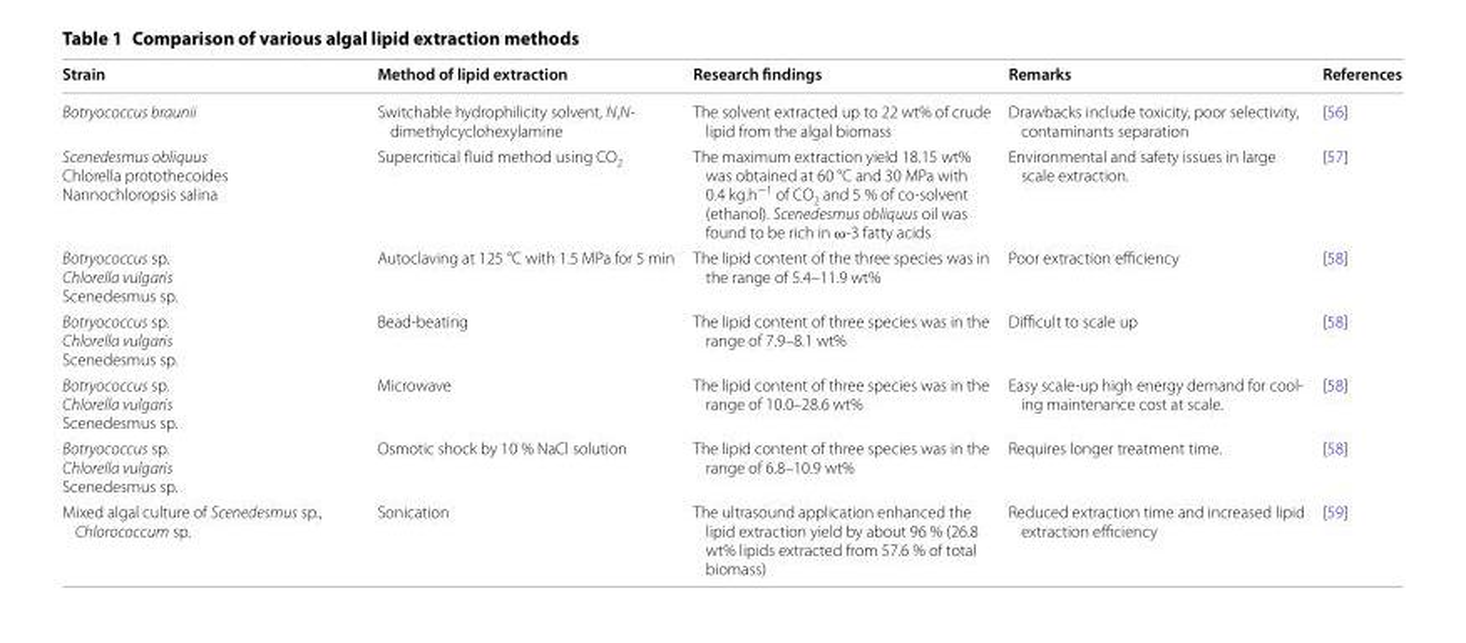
<table><thead><tr><td>Strain</td><td>Method of lipid extraction</td><td>Research findings</td><td>Remarks</td><td>References</td></tr></thead><tbody><tr><td>Botryococcus braunii</td><td>Switchable hydrophilicity solvent, N,N- dimethylcyclohexylamine</td><td>The solvent extracted up to 22 wt% of crude lipid from the algal biomass</td><td>Drawbacks include toxicity, poor selectivity, contaminants separation</td><td>[56]</td></tr><tr><td>Scenedesmus obliquus Chlorella protothecoides Nannochloropsis salina</td><td>Supercritical fluid method using CO<sub>2</sub></td><td>The maximum extraction yield 18.15 wt% was obtained at 60 °C and 30 MPa with 0.4 kg.h<sup>−1</sup> of CO<sub>2</sub> and 5 % of co-solvent (ethanol). Scenedesmus obliquus oil was found to be rich in ω-3 fatty acids</td><td>Environmental and safety issues in large scale extraction.</td><td>[57]</td></tr><tr><td>Botryococcus sp. Chlorella vulgaris Scenedesmus sp.</td><td>Autoclaving at 125 °C with 1.5 MPa for 5 min</td><td>The lipid content of the three species was in the range of 5.4–11.9 wt%</td><td>Poor extraction efficiency</td><td>[58]</td></tr><tr><td>Botryococcus sp. Chlorella vulgaris Scenedesmus sp.</td><td>Bead-beating</td><td>The lipid content of three species was in the range of 7.9–8.1 wt%</td><td>Difficult to scale up</td><td>[58]</td></tr><tr><td>Botryococcus sp. Chlorella vulgaris Scenedesmus sp.</td><td>Microwave</td><td>The lipid content of three species was in the range of 10.0–28.6 wt%</td><td>Easy scale-up high energy demand for cool- ing maintenance cost at scale.</td><td>[58]</td></tr><tr><td>Botryococcus sp. Chlorella vulgaris Scenedesmus sp.</td><td>Osmotic shock by 10 % NaCl solution</td><td>The lipid content of three species was in the range of 6.8–10.9 wt%</td><td>Requires longer treatment time.</td><td>[58]</td></tr><tr><td>Mixed algal culture of Scenedesmus sp., Chlorococcum sp.</td><td>Sonication</td><td>The ultrasound application enhanced the lipid extraction yield by about 96 % (26.8 wt% lipids extracted from 57.6 % of total biomass)</td><td>Reduced extraction time and increased lipid extraction efficiency</td><td>[59]</td></tr></tbody></table>